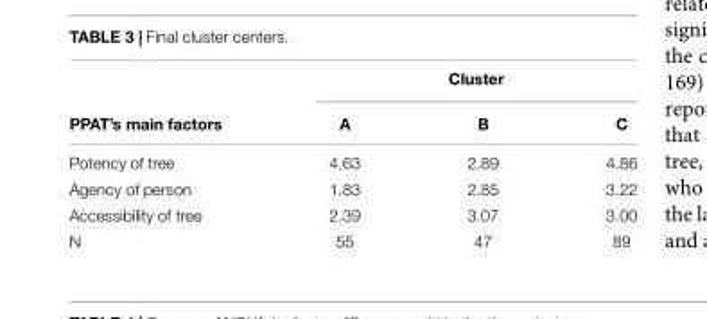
<table><thead><tr><td rowspan="2">PPAT’s main factors</td><td colspan="3">Cluster</td></tr><tr><td>A</td><td>B</td><td>C</td></tr></thead><tbody><tr><td>Potency of tree</td><td>4.63</td><td>2.89</td><td>4.86</td></tr><tr><td>Agency of person</td><td>1.83</td><td>2.85</td><td>3.22</td></tr><tr><td>Accessibility of tree</td><td>2.39</td><td>3.07</td><td>3.00</td></tr><tr><td>N</td><td>55</td><td>47</td><td>89</td></tr></tbody></table>